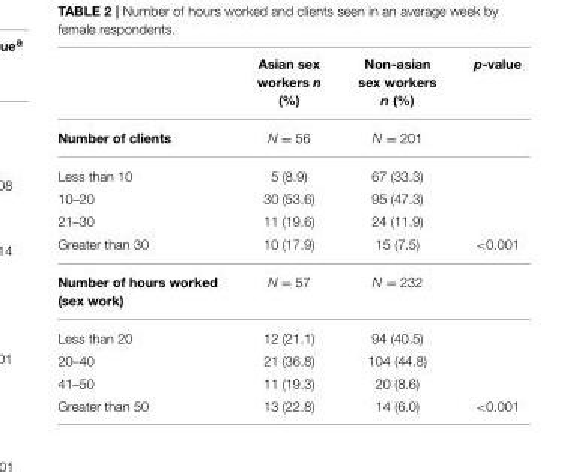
<table><thead><tr><td></td><td>Asian sex workers n (%)</td><td>Non-asian sex workers n (%)</td><td>p-value</td></tr></thead><tbody><tr><td>Number of clients</td><td>N = 56</td><td>N = 201</td><td></td></tr><tr><td>Less than 10</td><td>5 (8.9)</td><td>67 (33.3)</td><td></td></tr><tr><td>10–20</td><td>30 (53.6)</td><td>95 (47.3)</td><td></td></tr><tr><td>21–30</td><td>11 (19.6)</td><td>24 (11.9)</td><td></td></tr><tr><td>Greater than 30</td><td>10 (17.9)</td><td>15 (7.5)</td><td>&lt;0.001</td></tr><tr><td>Number of hours worked (sex work)</td><td>N = 57</td><td>N = 232</td><td></td></tr><tr><td>Less than 20</td><td>12 (21.1)</td><td>94 (40.5)</td><td></td></tr><tr><td>20–40</td><td>21 (36.8)</td><td>104 (44.8)</td><td></td></tr><tr><td>41–50</td><td>11 (19.3)</td><td>20 (8.6)</td><td></td></tr><tr><td>Greater than 50</td><td>13 (22.8)</td><td>14 (6.0)</td><td>&lt;0.001</td></tr></tbody></table>